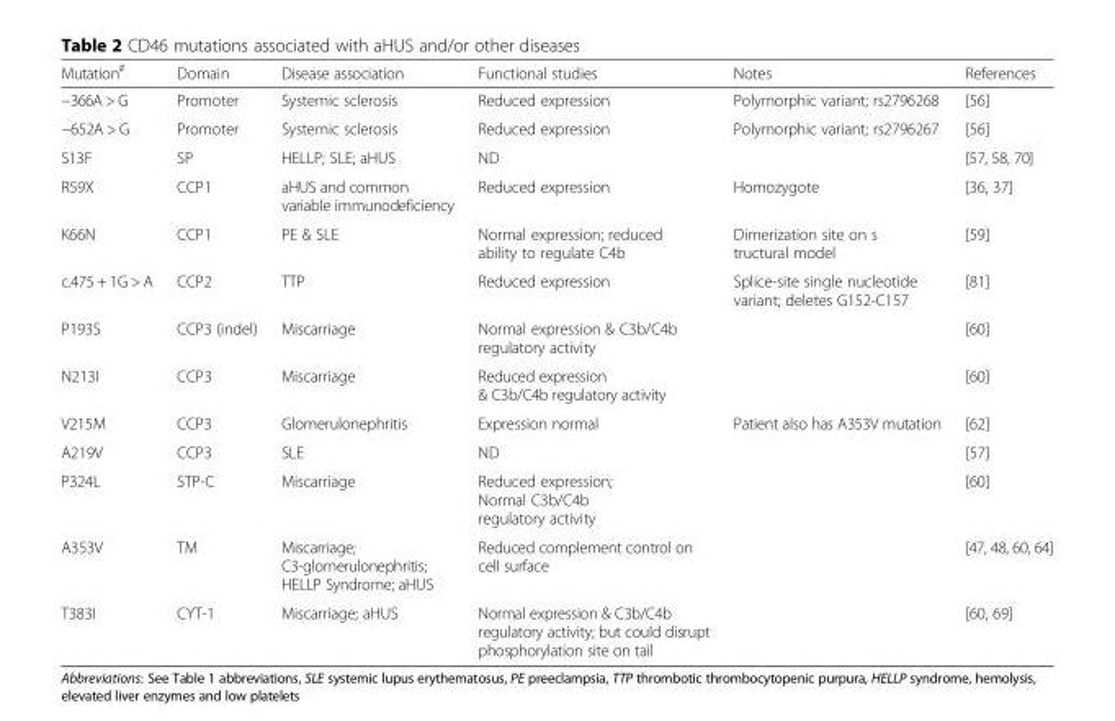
<table><thead><tr><td>Mutation<sup>#</sup></td><td>Domain</td><td>Disease association</td><td>Functional studies</td><td>Notes</td><td>References</td></tr></thead><tbody><tr><td>−366A &gt; G</td><td>Promoter</td><td>Systemic sclerosis</td><td>Reduced expression</td><td>Polymorphic variant; rs2796268</td><td>[56]</td></tr><tr><td>−652A &gt; G</td><td>Promoter</td><td>Systemic sclerosis</td><td>Reduced expression</td><td>Polymorphic variant; rs2796267</td><td>[56]</td></tr><tr><td>S13F</td><td>SP</td><td>HELLP; SLE; aHUS</td><td>ND</td><td></td><td>[57, 58, 70]</td></tr><tr><td>R59X</td><td>CCP1</td><td>aHUS and common variable immunodeficiency</td><td>Reduced expression</td><td>Homozygote</td><td>[36, 37]</td></tr><tr><td>K66N</td><td>CCP1</td><td>PE &amp; SLE</td><td>Normal expression; reduced ability to regulate C4b</td><td>Dimerization site on s tructural model</td><td>[59]</td></tr><tr><td>c.475 + 1G &gt; A</td><td>CCP2</td><td>TTP</td><td>Reduced expression</td><td>Splice-site single nucleotide variant; deletes G152-C157</td><td>[81]</td></tr><tr><td>P193S</td><td>CCP3 (indel)</td><td>Miscarriage</td><td>Normal expression &amp; C3b/C4b regulatory activity</td><td></td><td>[60]</td></tr><tr><td>N213I</td><td>CCP3</td><td>Miscarriage</td><td>Reduced expression &amp; C3b/C4b regulatory activity</td><td></td><td>[60]</td></tr><tr><td>V215M</td><td>CCP3</td><td>Glomerulonephritis</td><td>Expression normal</td><td>Patient also has A353V mutation</td><td>[62]</td></tr><tr><td>A219V</td><td>CCP3</td><td>SLE</td><td>ND</td><td></td><td>[57]</td></tr><tr><td>P324L</td><td>STP-C</td><td>Miscarriage</td><td>Reduced expression; Normal C3b/C4b regulatory activity</td><td></td><td>[60]</td></tr><tr><td>A353V</td><td>TM</td><td>Miscarriage; C3-glomerulonephritis; HELLP Syndrome; aHUS</td><td>Reduced complement control on cell surface</td><td></td><td>[47, 48, 60, 64]</td></tr><tr><td>T383I</td><td>CYT-1</td><td>Miscarriage; aHUS</td><td>Normal expression &amp; C3b/C4b regulatory activity; but could disrupt phosphorylation site on tail</td><td></td><td>[60, 69]</td></tr></tbody></table>